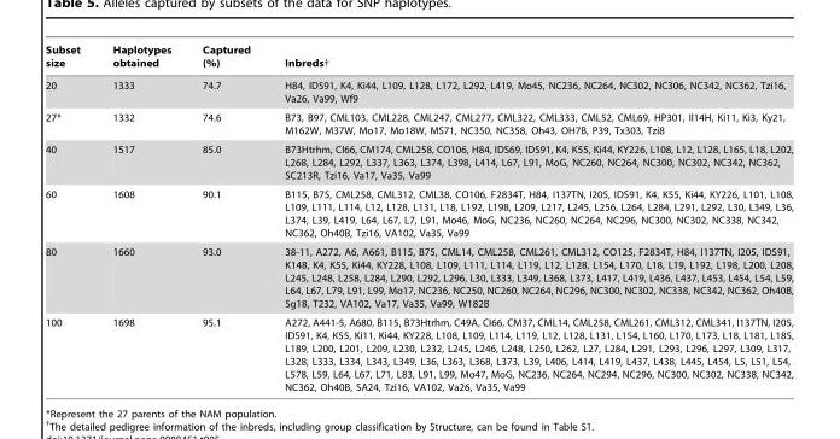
<table><thead><tr><td>Subset size</td><td>Haplotypes obtained</td><td>Captured (%)</td><td>Inbreds†</td></tr></thead><tbody><tr><td>20</td><td>1333</td><td>74.7</td><td>H84, IDS91, K4, Ki44, L109, L128, L172, L292, L419, Mo45, NC236, NC264, NC302, NC306, NC342, NC362, Tzi16, Va26, Va99, Wf9</td></tr><tr><td>27*</td><td>1332</td><td>74.6</td><td>B73, B97, CML103, CML228, CML247, CML277, CML322, CML333, CML52, CML69, HP301, Il14H, Ki11, Ki3, Ky21, M162W, M37W, Mo17, Mo18W, MS71, NC350, NC358, Oh43, OH7B, P39, Tx303, Tzi8</td></tr><tr><td>40</td><td>1517</td><td>85.0</td><td>B73Htrhm, CI66, CM174, CML258, CO106, H84, IDS69, IDS91, K4, K55, Ki44, KY226, L108, L12, L128, L165, L18, L202, L268, L284, L292, L337, L363, L374, L398, L414, L67, L91, MoG, NC260, NC264, NC300, NC302, NC342, NC362, SC213R, Tzi16, Va17, Va35, Va99</td></tr><tr><td>60</td><td>1608</td><td>90.1</td><td>B115, B75, CML258, CML312, CML38, CO106, F2834T, H84, I137TN, I205, IDS91, K4, K55, Ki44, KY226, L101, L108, L109, L111, L114, L12, L128, L131, L18, L192, L198, L209, L217, L245, L256, L264, L284, L291, L292, L30, L349, L36, L374, L39, L419, L64, L67, L7, L91, Mo46, MoG, NC236, NC260, NC264, NC296, NC300, NC302, NC338, NC342, NC362, Oh40B, Tzi16, VA102, Va35, Va99</td></tr><tr><td>80</td><td>1660</td><td>93.0</td><td>38-11, A272, A6, A661, B115, B75, CML14, CML258, CML261, CML312, CO125, F2834T, H84, I137TN, I205, IDS91, K148, K4, K55, Ki44, KY228, L108, L109, L111, L114, L119, L12, L128, L154, L170, L18, L19, L192, L198, L200, L208, L245, L248, L258, L284, L290, L292, L296, L30, L333, L349, L368, L373, L417, L419, L436, L437, L453, L454, L54, L59, L64, L67, L79, L91, L99, Mo17, NC236, NC250, NC260, NC264, NC296, NC300, NC302, NC338, NC342, NC362, Oh40B, Sg18, T232, VA102, Va17, Va35, Va99, W182B</td></tr><tr><td>100</td><td>1698</td><td>95.1</td><td>A272, A441-5, A680, B115, B73Htrhm, C49A, CI66, CM37, CML14, CML258, CML261, CML312, CML341, I137TN, I205, IDS91, K4, K55, Ki11, Ki44, KY228, L108, L109, L114, L119, L12, L128, L131, L154, L160, L170, L173, L18, L181, L185, L189, L200, L201, L209, L230, L232, L245, L246, L248, L250, L262, L27, L284, L291, L293, L296, L297, L309, L317, L328, L333, L334, L343, L349, L36, L363, L368, L373, L39, L406, L414, L419, L437, L438, L445, L454, L5, L51, L54, L578, L59, L64, L67, L71, L83, L91, L99, Mo47, MoG, NC236, NC264, NC294, NC296, NC300, NC302, NC338, NC342, NC362, Oh40B, SA24, Tzi16, VA102, Va26, Va35, Va99</td></tr></tbody></table>